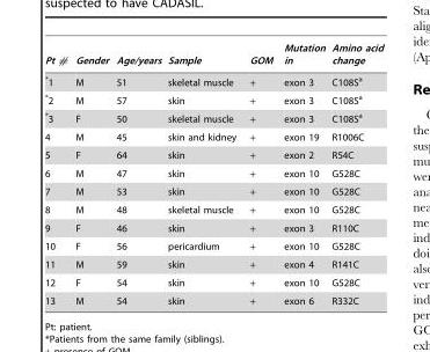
<table><thead><tr><td>Pt #</td><td>Gender</td><td>Age/years</td><td>Sample</td><td>GOM</td><td>Mutation in</td><td>Amino acid change</td></tr></thead><tbody><tr><td>*1</td><td>M</td><td>51</td><td>skeletal muscle</td><td>+</td><td>exon 3</td><td>C108S<sup>a</sup></td></tr><tr><td>*2</td><td>M</td><td>57</td><td>skin</td><td>+</td><td>exon 3</td><td>C108S<sup>a</sup></td></tr><tr><td>*3</td><td>F</td><td>50</td><td>skeletal muscle</td><td>+</td><td>exon 3</td><td>C108S<sup>a</sup></td></tr><tr><td>4</td><td>M</td><td>45</td><td>skin and kidney</td><td>+</td><td>exon 19</td><td>R1006C</td></tr><tr><td>5</td><td>F</td><td>64</td><td>skin</td><td>+</td><td>exon 2</td><td>R54C</td></tr><tr><td>6</td><td>M</td><td>47</td><td>skin</td><td>+</td><td>exon 10</td><td>G528C</td></tr><tr><td>7</td><td>M</td><td>53</td><td>skin</td><td>+</td><td>exon 10</td><td>G528C</td></tr><tr><td>8</td><td>M</td><td>48</td><td>skeletal muscle</td><td>+</td><td>exon 10</td><td>G528C</td></tr><tr><td>9</td><td>F</td><td>46</td><td>skin</td><td>+</td><td>exon 3</td><td>R110C</td></tr><tr><td>10</td><td>F</td><td>56</td><td>pericardium</td><td>+</td><td>exon 10</td><td>G528C</td></tr><tr><td>11</td><td>M</td><td>59</td><td>skin</td><td>+</td><td>exon 4</td><td>R141C</td></tr><tr><td>12</td><td>F</td><td>54</td><td>skin</td><td>+</td><td>exon 10</td><td>G528C</td></tr><tr><td>13</td><td>M</td><td>54</td><td>skin</td><td>+</td><td>exon 6</td><td>R332C</td></tr></tbody></table>